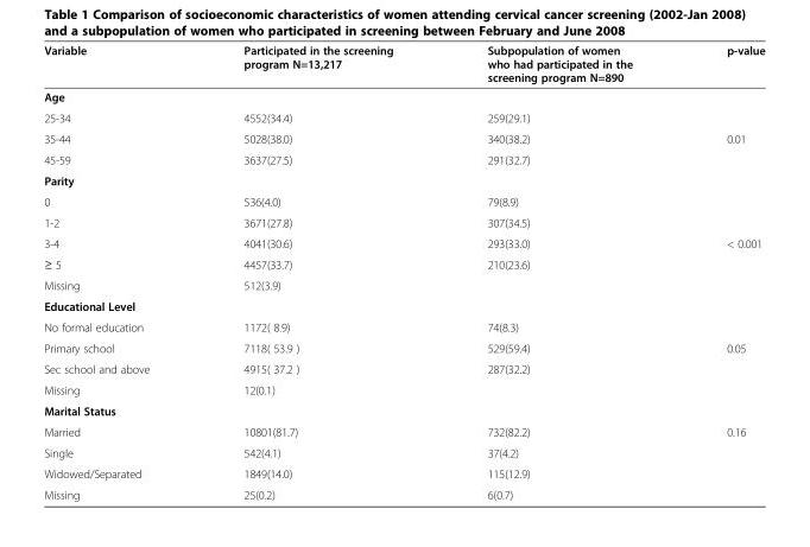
<table><thead><tr><td>Variable</td><td>Participated in the screening program N=13,217</td><td>Subpopulation of women who had participated in the screening program N=890</td><td>p-value</td></tr></thead><tbody><tr><td colspan="4">Age</td></tr><tr><td>25-34</td><td>4552(34.4)</td><td>259(29.1)</td><td></td></tr><tr><td>35-44</td><td>5028(38.0)</td><td>340(38.2)</td><td>0.01</td></tr><tr><td>45-59</td><td>3637(27.5)</td><td>291(32.7)</td><td></td></tr><tr><td colspan="4">Parity</td></tr><tr><td>0</td><td>536(4.0)</td><td>79(8.9)</td><td></td></tr><tr><td>1-2</td><td>3671(27.8)</td><td>307(34.5)</td><td></td></tr><tr><td>3-4</td><td>4041(30.6)</td><td>293(33.0)</td><td>&lt; 0.001</td></tr><tr><td>≥ 5</td><td>4457(33.7)</td><td>210(23.6)</td><td></td></tr><tr><td>Missing</td><td>512(3.9)</td><td></td><td></td></tr><tr><td colspan="4">Educational Level</td></tr><tr><td>No formal education</td><td>1172( 8.9)</td><td>74(8.3)</td><td></td></tr><tr><td>Primary school</td><td>7118( 53.9 )</td><td>529(59.4)</td><td>0.05</td></tr><tr><td>Sec school and above</td><td>4915( 37.2 )</td><td>287(32.2)</td><td></td></tr><tr><td>Missing</td><td>12(0.1)</td><td></td><td></td></tr><tr><td colspan="4">Marital Status</td></tr><tr><td>Married</td><td>10801(81.7)</td><td>732(82.2)</td><td>0.16</td></tr><tr><td>Single</td><td>542(4.1)</td><td>37(4.2)</td><td></td></tr><tr><td>Widowed/Separated</td><td>1849(14.0)</td><td>115(12.9)</td><td></td></tr><tr><td>Missing</td><td>25(0.2)</td><td>6(0.7)</td><td></td></tr></tbody></table>